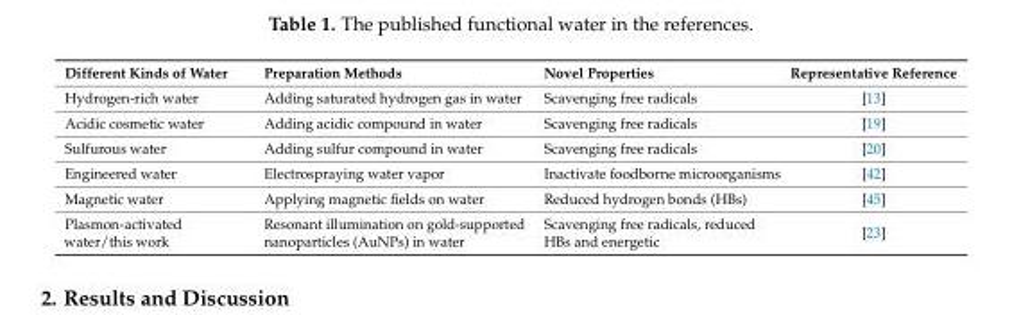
<table><thead><tr><td>Different Kinds of Water</td><td>Preparation Methods</td><td>Novel Properties</td><td>Representative Reference</td></tr></thead><tbody><tr><td>Hydrogen-rich water</td><td>Adding saturated hydrogen gas in water</td><td>Scavenging free radicals</td><td>[13]</td></tr><tr><td>Acidic cosmetic water</td><td>Adding acidic compound in water</td><td>Scavenging free radicals</td><td>[19]</td></tr><tr><td>Sulfurous water</td><td>Adding sulfur compound in water</td><td>Scavenging free radicals</td><td>[20]</td></tr><tr><td>Engineered water</td><td>Electrospraying water vapor</td><td>Inactivate foodborne microorganisms</td><td>[42]</td></tr><tr><td>Magnetic water</td><td>Applying magnetic fields on water</td><td>Reduced hydrogen bonds (HBs)</td><td>[45]</td></tr><tr><td>Plasmon-activated water/this work</td><td>Resonant illumination on gold-supported nanoparticles (AuNPs) in water</td><td>Scavenging free radicals, reduced HBs and energetic</td><td>[23]</td></tr></tbody></table>